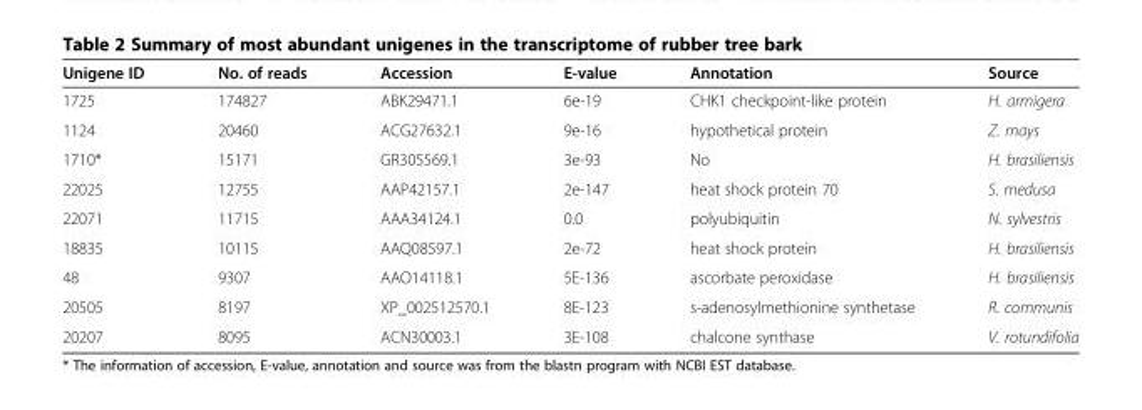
<table><thead><tr><td>Unigene ID</td><td>No. of reads</td><td>Accession</td><td>E-value</td><td>Annotation</td><td>Source</td></tr></thead><tbody><tr><td>1725</td><td>174827</td><td>ABK29471.1</td><td>6e-19</td><td>CHK1 checkpoint-like protein</td><td>H. armigera</td></tr><tr><td>1124</td><td>20460</td><td>ACG27632.1</td><td>9e-16</td><td>hypothetical protein</td><td>Z. mays</td></tr><tr><td>1710*</td><td>15171</td><td>GR305569.1</td><td>3e-93</td><td>No</td><td>H. brasiliensis</td></tr><tr><td>22025</td><td>12755</td><td>AAP42157.1</td><td>2e-147</td><td>heat shock protein 70</td><td>S. medusa</td></tr><tr><td>22071</td><td>11715</td><td>AAA34124.1</td><td>0.0</td><td>polyubiquitin</td><td>N. sylvestris</td></tr><tr><td>18835</td><td>10115</td><td>AAQ08597.1</td><td>2e-72</td><td>heat shock protein</td><td>H. brasiliensis</td></tr><tr><td>48</td><td>9307</td><td>AAO14118.1</td><td>5E-136</td><td>ascorbate peroxidase</td><td>H. brasiliensis</td></tr><tr><td>20505</td><td>8197</td><td>XP_002512570.1</td><td>8E-123</td><td>s-adenosylmethionine synthetase</td><td>R. communis</td></tr><tr><td>20207</td><td>8095</td><td>ACN30003.1</td><td>3E-108</td><td>chalcone synthase</td><td>V. rotundifolia</td></tr></tbody></table>